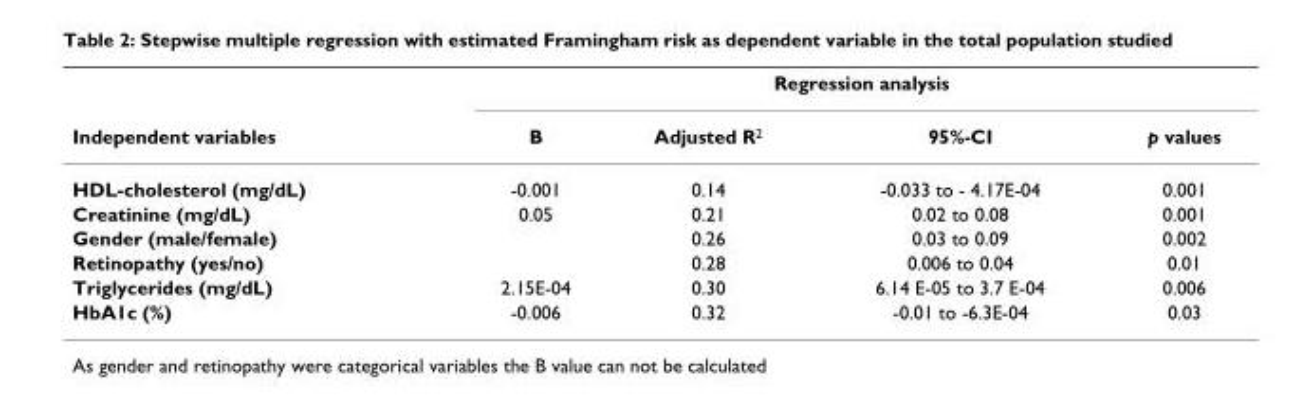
<table><thead><tr><td rowspan="2">Independent variables</td><td colspan="4">Regression analysis</td></tr><tr><td>B</td><td>Adjusted R<sup>2</sup></td><td>95%-CI</td><td>p values</td></tr></thead><tbody><tr><td>HDL-cholesterol (mg/dL)</td><td>-0.001</td><td>0.14</td><td>-0.033 to - 4.17E-04</td><td>0.001</td></tr><tr><td>Creatinine (mg/dL)</td><td>0.05</td><td>0.21</td><td>0.02 to 0.08</td><td>0.001</td></tr><tr><td>Gender (male/female)</td><td></td><td>0.26</td><td>0.03 to 0.09</td><td>0.002</td></tr><tr><td>Retinopathy (yes/no)</td><td></td><td>0.28</td><td>0.006 to 0.04</td><td>0.01</td></tr><tr><td>Triglycerides (mg/dL)</td><td>2.15E-04</td><td>0.30</td><td>6.14 E-05 to 3.7 E-04</td><td>0.006</td></tr><tr><td>HbA1c (%)</td><td>-0.006</td><td>0.32</td><td>-0.01 to -6.3E-04</td><td>0.03</td></tr></tbody></table>